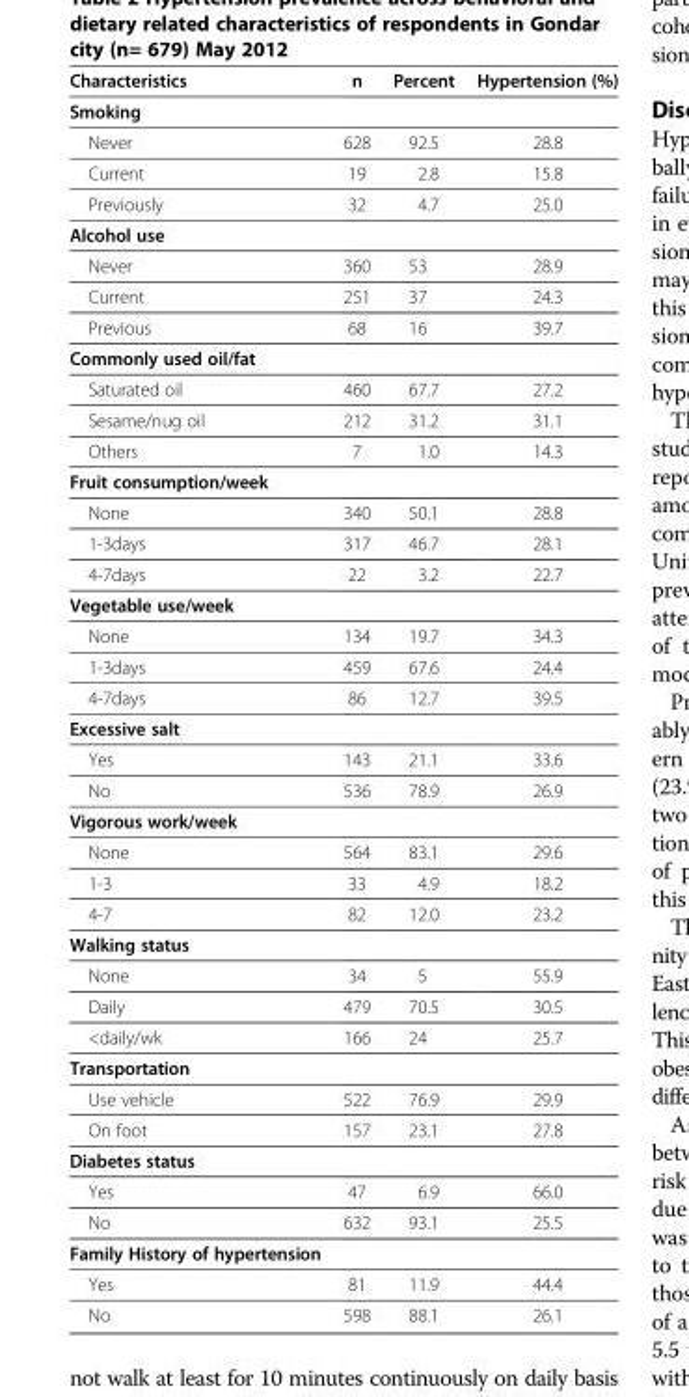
<table><thead><tr><td>Characteristics</td><td>n</td><td>Percent</td><td>Hypertension (%)</td></tr></thead><tbody><tr><td colspan="4">Smoking</td></tr><tr><td>Never</td><td>628</td><td>92.5</td><td>28.8</td></tr><tr><td>Current</td><td>19</td><td>2.8</td><td>15.8</td></tr><tr><td>Previously</td><td>32</td><td>4.7</td><td>25.0</td></tr><tr><td colspan="4">Alcohol use</td></tr><tr><td>Never</td><td>360</td><td>53</td><td>28.9</td></tr><tr><td>Current</td><td>251</td><td>37</td><td>24.3</td></tr><tr><td>Previous</td><td>68</td><td>16</td><td>39.7</td></tr><tr><td colspan="4">Commonly used oil/fat</td></tr><tr><td>Saturated oil</td><td>460</td><td>67.7</td><td>27.2</td></tr><tr><td>Sesame/nug oil</td><td>212</td><td>31.2</td><td>31.1</td></tr><tr><td>Others</td><td>7</td><td>1.0</td><td>14.3</td></tr><tr><td colspan="4">Fruit consumption/week</td></tr><tr><td>None</td><td>340</td><td>50.1</td><td>28.8</td></tr><tr><td>1-3days</td><td>317</td><td>46.7</td><td>28.1</td></tr><tr><td>4-7days</td><td>22</td><td>3.2</td><td>22.7</td></tr><tr><td colspan="4">Vegetable use/week</td></tr><tr><td>None</td><td>134</td><td>19.7</td><td>34.3</td></tr><tr><td>1-3days</td><td>459</td><td>67.6</td><td>24.4</td></tr><tr><td>4-7days</td><td>86</td><td>12.7</td><td>39.5</td></tr><tr><td colspan="4">Excessive salt</td></tr><tr><td>Yes</td><td>143</td><td>21.1</td><td>33.6</td></tr><tr><td>No</td><td>536</td><td>78.9</td><td>26.9</td></tr><tr><td colspan="4">Vigorous work/week</td></tr><tr><td>None</td><td>564</td><td>83.1</td><td>29.6</td></tr><tr><td>1-3</td><td>33</td><td>4.9</td><td>18.2</td></tr><tr><td>4-7</td><td>82</td><td>12.0</td><td>23.2</td></tr><tr><td colspan="4">Walking status</td></tr><tr><td>None</td><td>34</td><td>5</td><td>55.9</td></tr><tr><td>Daily</td><td>479</td><td>70.5</td><td>30.5</td></tr><tr><td>&lt;daily/wk</td><td>166</td><td>24</td><td>25.7</td></tr><tr><td colspan="4">Transportation</td></tr><tr><td>Use vehicle</td><td>522</td><td>76.9</td><td>29.9</td></tr><tr><td>On foot</td><td>157</td><td>23.1</td><td>27.8</td></tr><tr><td colspan="4">Diabetes status</td></tr><tr><td>Yes</td><td>47</td><td>6.9</td><td>66.0</td></tr><tr><td>No</td><td>632</td><td>93.1</td><td>25.5</td></tr><tr><td colspan="4">Family History of hypertension</td></tr><tr><td>Yes</td><td>81</td><td>11.9</td><td>44.4</td></tr><tr><td>No</td><td>598</td><td>88.1</td><td>26.1</td></tr></tbody></table>